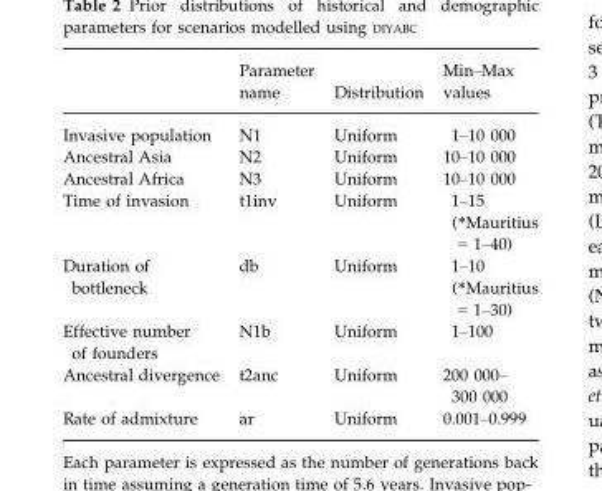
<table><thead><tr><td></td><td>Parameter name</td><td>Distribution</td><td>Min–Max values</td></tr></thead><tbody><tr><td>Invasive population</td><td>N1</td><td>Uniform</td><td>1–10 000</td></tr><tr><td>Ancestral Asia</td><td>N2</td><td>Uniform</td><td>10–10 000</td></tr><tr><td>Ancestral Africa</td><td>N3</td><td>Uniform</td><td>10–10 000</td></tr><tr><td>Time of invasion</td><td>t1inv</td><td>Uniform</td><td>1–15 (*Mauritius = 1–40)</td></tr><tr><td>Duration of bottleneck</td><td>db</td><td>Uniform</td><td>1–10 (*Mauritius = 1–30)</td></tr><tr><td>Effective number of founders</td><td>N1b</td><td>Uniform</td><td>1–100</td></tr><tr><td>Ancestral divergence</td><td>t2anc</td><td>Uniform</td><td>200 000– 300 000</td></tr><tr><td>Rate of admixture</td><td>ar</td><td>Uniform</td><td>0.001–0.999</td></tr></tbody></table>